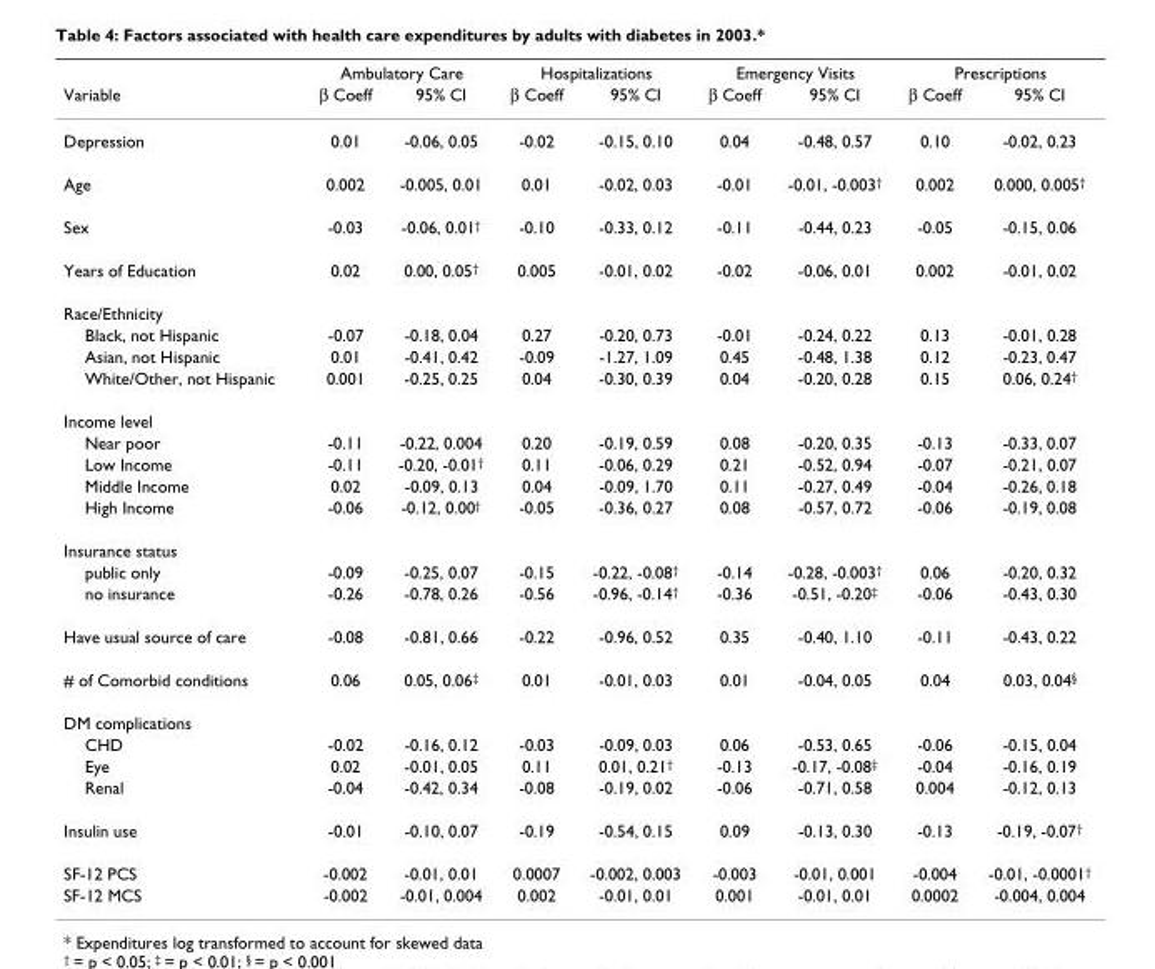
<table><thead><tr><td rowspan="2">Variable</td><td colspan="2">Ambulatory Care</td><td colspan="2">Hospitalizations</td><td colspan="2">Emergency Visits</td><td colspan="2">Prescriptions</td></tr><tr><td>β Coeff</td><td>95% CI</td><td>β Coeff</td><td>95% CI</td><td>β Coeff</td><td>95% CI</td><td>β Coeff</td><td>95% CI</td></tr></thead><tbody><tr><td>Depression</td><td>0.01</td><td>-0.06, 0.05</td><td>-0.02</td><td>-0.15, 0.10</td><td>0.04</td><td>-0.48, 0.57</td><td>0.10</td><td>-0.02, 0.23</td></tr><tr><td>Age</td><td>0.002</td><td>-0.005, 0.01</td><td>0.01</td><td>-0.02, 0.03</td><td>-0.01</td><td>-0.01, -0.003<sup>†</sup></td><td>0.002</td><td>0.000, 0.005<sup>†</sup></td></tr><tr><td>Sex</td><td>-0.03</td><td>-0.06, 0.01<sup>†</sup></td><td>-0.10</td><td>-0.33, 0.12</td><td>-0.11</td><td>-0.44, 0.23</td><td>-0.05</td><td>-0.15, 0.06</td></tr><tr><td>Years of Education</td><td>0.02</td><td>0.00, 0.05<sup>†</sup></td><td>0.005</td><td>-0.01, 0.02</td><td>-0.02</td><td>-0.06, 0.01</td><td>0.002</td><td>-0.01, 0.02</td></tr><tr><td colspan="9">Race/Ethnicity</td></tr><tr><td>Black, not Hispanic</td><td>-0.07</td><td>-0.18, 0.04</td><td>0.27</td><td>-0.20, 0.73</td><td>-0.01</td><td>-0.24, 0.22</td><td>0.13</td><td>-0.01, 0.28</td></tr><tr><td>Asian, not Hispanic</td><td>0.01</td><td>-0.41, 0.42</td><td>-0.09</td><td>-1.27, 1.09</td><td>0.45</td><td>-0.48, 1.38</td><td>0.12</td><td>-0.23, 0.47</td></tr><tr><td>White/Other, not Hispanic</td><td>0.001</td><td>-0.25, 0.25</td><td>0.04</td><td>-0.30, 0.39</td><td>0.04</td><td>-0.20, 0.28</td><td>0.15</td><td>0.06, 0.24<sup>†</sup></td></tr><tr><td colspan="9">Income level</td></tr><tr><td>Near poor</td><td>-0.11</td><td>-0.22, 0.004</td><td>0.20</td><td>-0.19, 0.59</td><td>0.08</td><td>-0.20, 0.35</td><td>-0.13</td><td>-0.33, 0.07</td></tr><tr><td>Low Income</td><td>-0.11</td><td>-0.20, -0.01<sup>†</sup></td><td>0.11</td><td>-0.06, 0.29</td><td>0.21</td><td>-0.52, 0.94</td><td>-0.07</td><td>-0.21, 0.07</td></tr><tr><td>Middle Income</td><td>0.02</td><td>-0.09, 0.13</td><td>0.04</td><td>-0.09, 1.70</td><td>0.11</td><td>-0.27, 0.49</td><td>-0.04</td><td>-0.26, 0.18</td></tr><tr><td>High Income</td><td>-0.06</td><td>-0.12, 0.00<sup>†</sup></td><td>-0.05</td><td>-0.36, 0.27</td><td>0.08</td><td>-0.57, 0.72</td><td>-0.06</td><td>-0.19, 0.08</td></tr><tr><td colspan="9">Insurance status</td></tr><tr><td>public only</td><td>-0.09</td><td>-0.25, 0.07</td><td>-0.15</td><td>-0.22, -0.08<sup>†</sup></td><td>-0.14</td><td>-0.28, -0.003<sup>†</sup></td><td>0.06</td><td>-0.20, 0.32</td></tr><tr><td>no insurance</td><td>-0.26</td><td>-0.78, 0.26</td><td>-0.56</td><td>-0.96, -0.14<sup>†</sup></td><td>-0.36</td><td>-0.51, -0.20<sup>‡</sup></td><td>-0.06</td><td>-0.43, 0.30</td></tr><tr><td>Have usual source of care</td><td>-0.08</td><td>-0.81, 0.66</td><td>-0.22</td><td>-0.96, 0.52</td><td>0.35</td><td>-0.40, 1.10</td><td>-0.11</td><td>-0.43, 0.22</td></tr><tr><td># of Comorbid conditions</td><td>0.06</td><td>0.05, 0.06<sup>‡</sup></td><td>0.01</td><td>-0.01, 0.03</td><td>0.01</td><td>-0.04, 0.05</td><td>0.04</td><td>0.03, 0.04<sup>§</sup></td></tr><tr><td colspan="9">DM complications</td></tr><tr><td>CHD</td><td>-0.02</td><td>-0.16, 0.12</td><td>-0.03</td><td>-0.09, 0.03</td><td>0.06</td><td>-0.53, 0.65</td><td>-0.06</td><td>-0.15, 0.04</td></tr><tr><td>Eye</td><td>0.02</td><td>-0.01, 0.05</td><td>0.11</td><td>0.01, 0.21<sup>†</sup></td><td>-0.13</td><td>-0.17, -0.08<sup>‡</sup></td><td>-0.04</td><td>-0.16, 0.19</td></tr><tr><td>Renal</td><td>-0.04</td><td>-0.42, 0.34</td><td>-0.08</td><td>-0.19, 0.02</td><td>-0.06</td><td>-0.71, 0.58</td><td>0.004</td><td>-0.12, 0.13</td></tr><tr><td>Insulin use</td><td>-0.01</td><td>-0.10, 0.07</td><td>-0.19</td><td>-0.54, 0.15</td><td>0.09</td><td>-0.13, 0.30</td><td>-0.13</td><td>-0.19, -0.07<sup>†</sup></td></tr><tr><td>SF-12 PCS</td><td>-0.002</td><td>-0.01, 0.01</td><td>0.0007</td><td>-0.002, 0.003</td><td>-0.003</td><td>-0.01, 0.001</td><td>-0.004</td><td>-0.01, -0.0001<sup>†</sup></td></tr><tr><td>SF-12 MCS</td><td>-0.002</td><td>-0.01, 0.004</td><td>0.002</td><td>-0.01, 0.01</td><td>0.001</td><td>-0.01, 0.01</td><td>0.0002</td><td>-0.004, 0.004</td></tr></tbody></table>